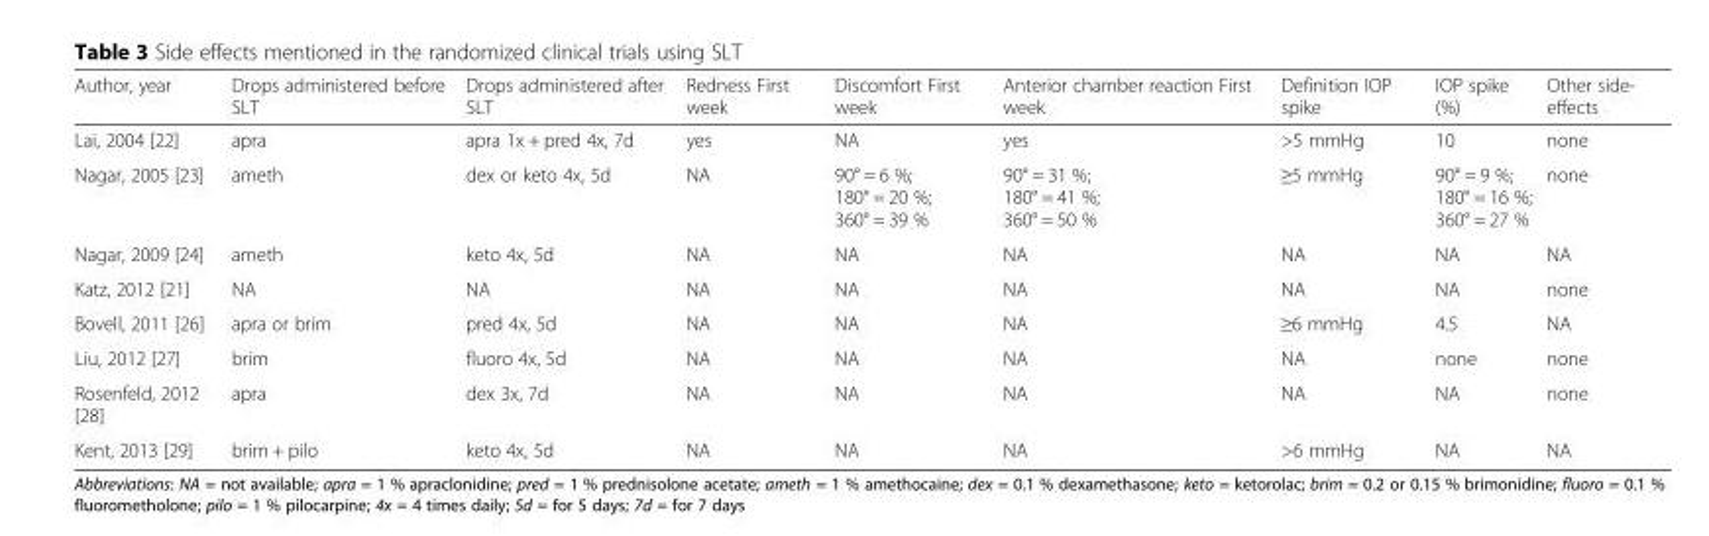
<table><thead><tr><td>Author, year</td><td>Drops administered before SLT</td><td>Drops administered after SLT</td><td>Redness First week</td><td>Discomfort First week</td><td>Anterior chamber reaction First week</td><td>Definition IOP spike</td><td>IOP spike (%)</td><td>Other side- effects</td></tr></thead><tbody><tr><td>Lai, 2004 [22]</td><td>apra</td><td>apra 1x + pred 4x, 7d</td><td>yes</td><td>NA</td><td>yes</td><td>&gt;5 mmHg</td><td>10</td><td>none</td></tr><tr><td>Nagar, 2005 [23]</td><td>ameth</td><td>dex or keto 4x, 5d</td><td>NA</td><td>90° = 6 %; 180° = 20 %; 360° = 39 %</td><td>90° = 31 %; 180° = 41 %; 360° = 50 %</td><td>≥5 mmHg</td><td>90° = 9 %; 180° = 16 %; 360° = 27 %</td><td>none</td></tr><tr><td>Nagar, 2009 [24]</td><td>ameth</td><td>keto 4x, 5d</td><td>NA</td><td>NA</td><td>NA</td><td>NA</td><td>NA</td><td>NA</td></tr><tr><td>Katz, 2012 [21]</td><td>NA</td><td>NA</td><td>NA</td><td>NA</td><td>NA</td><td>NA</td><td>NA</td><td>none</td></tr><tr><td>Bovell, 2011 [26]</td><td>apra or brim</td><td>pred 4x, 5d</td><td>NA</td><td>NA</td><td>NA</td><td>≥6 mmHg</td><td>4.5</td><td>NA</td></tr><tr><td>Liu, 2012 [27]</td><td>brim</td><td>fluoro 4x, 5d</td><td>NA</td><td>NA</td><td>NA</td><td>NA</td><td>none</td><td>none</td></tr><tr><td>Rosenfeld, 2012 [28]</td><td>apra</td><td>dex 3x, 7d</td><td>NA</td><td>NA</td><td>NA</td><td>NA</td><td>NA</td><td>none</td></tr><tr><td>Kent, 2013 [29]</td><td>brim + pilo</td><td>keto 4x, 5d</td><td>NA</td><td>NA</td><td>NA</td><td>&gt;6 mmHg</td><td>NA</td><td>NA</td></tr></tbody></table>